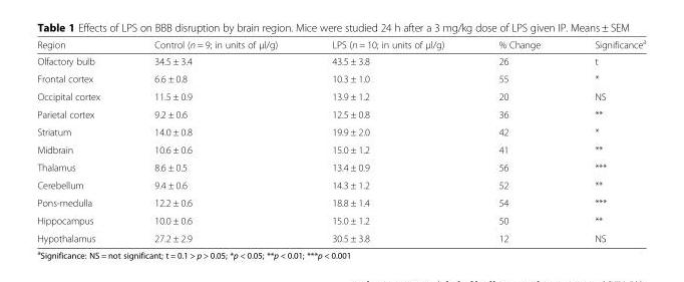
<table><thead><tr><td>Region</td><td>Control (n = 9; in units of μl/g)</td><td>LPS (n = 10; in units of μl/g)</td><td>% Change</td><td>Significance<sup>a</sup></td></tr></thead><tbody><tr><td>Olfactory bulb</td><td>34.5 ± 3.4</td><td>43.5 ± 3.8</td><td>26</td><td>t</td></tr><tr><td>Frontal cortex</td><td>6.6 ± 0.8</td><td>10.3 ± 1.0</td><td>55</td><td>*</td></tr><tr><td>Occipital cortex</td><td>11.5 ± 0.9</td><td>13.9 ± 1.2</td><td>20</td><td>NS</td></tr><tr><td>Parietal cortex</td><td>9.2 ± 0.6</td><td>12.5 ± 0.8</td><td>36</td><td>**</td></tr><tr><td>Striatum</td><td>14.0 ± 0.8</td><td>19.9 ± 2.0</td><td>42</td><td>*</td></tr><tr><td>Midbrain</td><td>10.6 ± 0.6</td><td>15.0 ± 1.2</td><td>41</td><td>**</td></tr><tr><td>Thalamus</td><td>8.6 ± 0.5</td><td>13.4 ± 0.9</td><td>56</td><td>***</td></tr><tr><td>Cerebellum</td><td>9.4 ± 0.6</td><td>14.3 ± 1.2</td><td>52</td><td>**</td></tr><tr><td>Pons-medulla</td><td>12.2 ± 0.6</td><td>18.8 ± 1.4</td><td>54</td><td>***</td></tr><tr><td>Hippocampus</td><td>10.0 ± 0.6</td><td>15.0 ± 1.2</td><td>50</td><td>**</td></tr><tr><td>Hypothalamus</td><td>27.2 ± 2.9</td><td>30.5 ± 3.8</td><td>12</td><td>NS</td></tr></tbody></table>